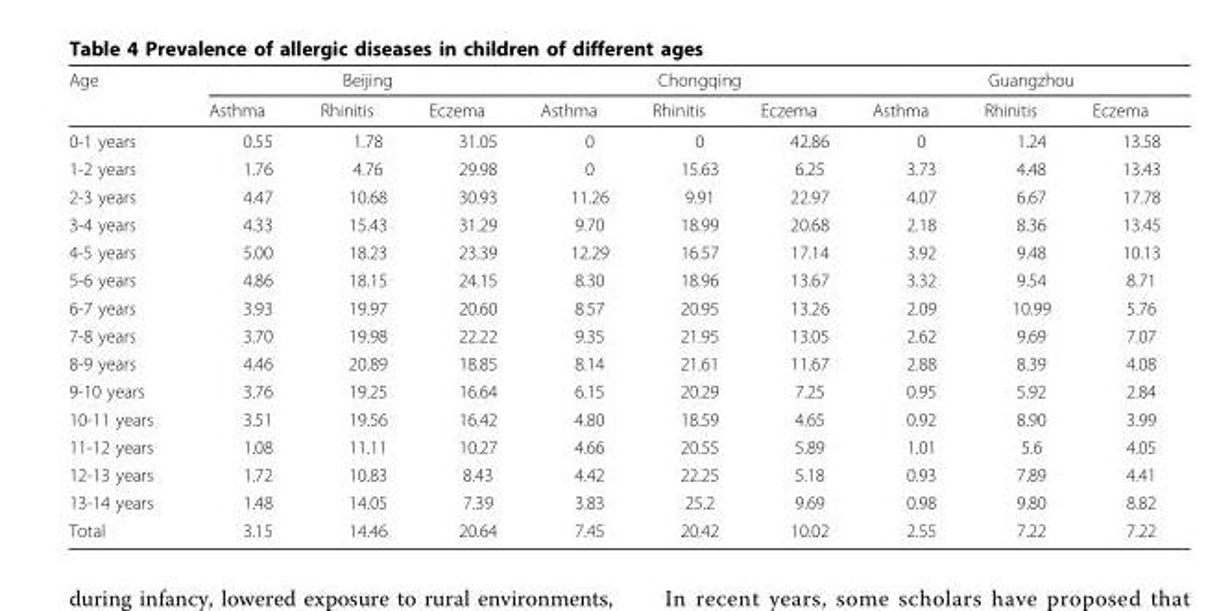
<table><thead><tr><td rowspan="2">Age</td><td colspan="3">Beijing</td><td colspan="3">Chongqing</td><td colspan="3">Guangzhou</td></tr><tr><td>Asthma</td><td>Rhinitis</td><td>Eczema</td><td>Asthma</td><td>Rhinitis</td><td>Eczema</td><td>Asthma</td><td>Rhinitis</td><td>Eczema</td></tr></thead><tbody><tr><td>0-1 years</td><td>0.55</td><td>1.78</td><td>31.05</td><td>0</td><td>0</td><td>42.86</td><td>0</td><td>1.24</td><td>13.58</td></tr><tr><td>1-2 years</td><td>1.76</td><td>4.76</td><td>29.98</td><td>0</td><td>15.63</td><td>6.25</td><td>3.73</td><td>4.48</td><td>13.43</td></tr><tr><td>2-3 years</td><td>4.47</td><td>10.68</td><td>30.93</td><td>11.26</td><td>9.91</td><td>22.97</td><td>4.07</td><td>6.67</td><td>17.78</td></tr><tr><td>3-4 years</td><td>4.33</td><td>15.43</td><td>31.29</td><td>9.70</td><td>18.99</td><td>20.68</td><td>2.18</td><td>8.36</td><td>13.45</td></tr><tr><td>4-5 years</td><td>5.00</td><td>18.23</td><td>23.39</td><td>12.29</td><td>16.57</td><td>17.14</td><td>3.92</td><td>9.48</td><td>10.13</td></tr><tr><td>5-6 years</td><td>4.86</td><td>18.15</td><td>24.15</td><td>8.30</td><td>18.96</td><td>13.67</td><td>3.32</td><td>9.54</td><td>8.71</td></tr><tr><td>6-7 years</td><td>3.93</td><td>19.97</td><td>20.60</td><td>8.57</td><td>20.95</td><td>13.26</td><td>2.09</td><td>10.99</td><td>5.76</td></tr><tr><td>7-8 years</td><td>3.70</td><td>19.98</td><td>22.22</td><td>9.35</td><td>21.95</td><td>13.05</td><td>2.62</td><td>9.69</td><td>7.07</td></tr><tr><td>8-9 years</td><td>4.46</td><td>20.89</td><td>18.85</td><td>8.14</td><td>21.61</td><td>11.67</td><td>2.88</td><td>8.39</td><td>4.08</td></tr><tr><td>9-10 years</td><td>3.76</td><td>19.25</td><td>16.64</td><td>6.15</td><td>20.29</td><td>7.25</td><td>0.95</td><td>5.92</td><td>2.84</td></tr><tr><td>10-11 years</td><td>3.51</td><td>19.56</td><td>16.42</td><td>4.80</td><td>18.59</td><td>4.65</td><td>0.92</td><td>8.90</td><td>3.99</td></tr><tr><td>11-12 years</td><td>1.08</td><td>11.11</td><td>10.27</td><td>4.66</td><td>20.55</td><td>5.89</td><td>1.01</td><td>5.6</td><td>4.05</td></tr><tr><td>12-13 years</td><td>1.72</td><td>10.83</td><td>8.43</td><td>4.42</td><td>22.25</td><td>5.18</td><td>0.93</td><td>7.89</td><td>4.41</td></tr><tr><td>13-14 years</td><td>1.48</td><td>14.05</td><td>7.39</td><td>3.83</td><td>25.2</td><td>9.69</td><td>0.98</td><td>9.80</td><td>8.82</td></tr><tr><td>Total</td><td>3.15</td><td>14.46</td><td>20.64</td><td>7.45</td><td>20.42</td><td>10.02</td><td>2.55</td><td>7.22</td><td>7.22</td></tr></tbody></table>